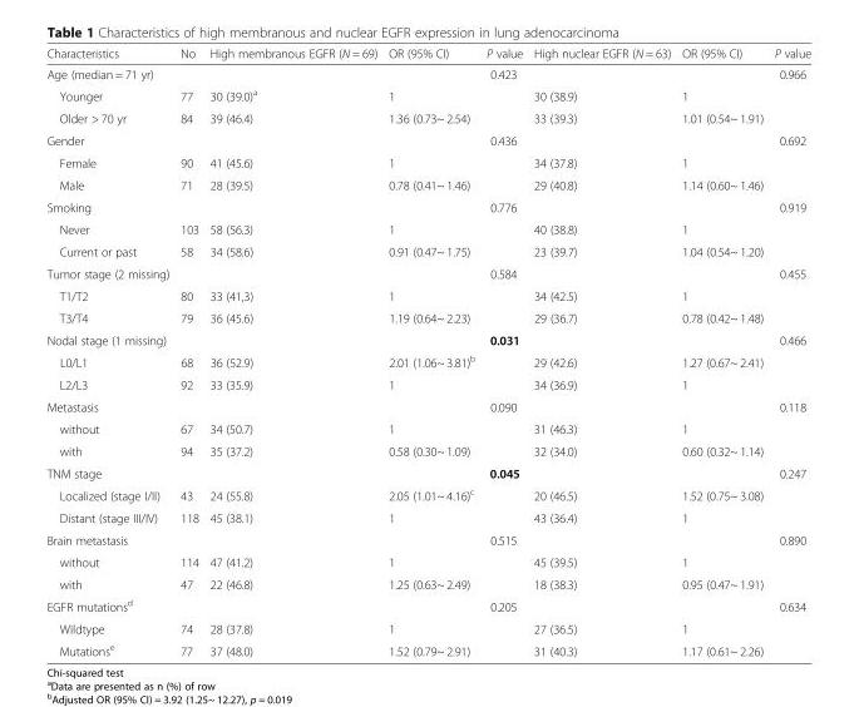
<table><thead><tr><td>Characteristics</td><td>No</td><td>High membranous EGFR (N = 69)</td><td>OR (95% CI)</td><td>P value</td><td>High nuclear EGFR (N = 63)</td><td>OR (95% CI)</td><td>P value</td></tr></thead><tbody><tr><td>Age (median = 71 yr)</td><td></td><td></td><td></td><td>0.423</td><td></td><td></td><td>0.966</td></tr><tr><td>Younger</td><td>77</td><td>30 (39.0)<sup>a</sup></td><td>1</td><td></td><td>30 (38.9)</td><td>1</td><td></td></tr><tr><td>Older &gt; 70 yr</td><td>84</td><td>39 (46.4)</td><td>1.36 (0.73~ 2.54)</td><td></td><td>33 (39.3)</td><td>1.01 (0.54~ 1.91)</td><td></td></tr><tr><td>Gender</td><td></td><td></td><td></td><td>0.436</td><td></td><td></td><td>0.692</td></tr><tr><td>Female</td><td>90</td><td>41 (45.6)</td><td>1</td><td></td><td>34 (37.8)</td><td>1</td><td></td></tr><tr><td>Male</td><td>71</td><td>28 (39.5)</td><td>0.78 (0.41~ 1.46)</td><td></td><td>29 (40.8)</td><td>1.14 (0.60~ 1.46)</td><td></td></tr><tr><td>Smoking</td><td></td><td></td><td></td><td>0.776</td><td></td><td></td><td>0.919</td></tr><tr><td>Never</td><td>103</td><td>58 (56.3)</td><td>1</td><td></td><td>40 (38.8)</td><td>1</td><td></td></tr><tr><td>Current or past</td><td>58</td><td>34 (58.6)</td><td>0.91 (0.47~ 1.75)</td><td></td><td>23 (39.7)</td><td>1.04 (0.54~ 1.20)</td><td></td></tr><tr><td>Tumor stage (2 missing)</td><td></td><td></td><td></td><td>0.584</td><td></td><td></td><td>0.455</td></tr><tr><td>T1/T2</td><td>80</td><td>33 (41,3)</td><td>1</td><td></td><td>34 (42.5)</td><td>1</td><td></td></tr><tr><td>T3/T4</td><td>79</td><td>36 (45.6)</td><td>1.19 (0.64~ 2.23)</td><td></td><td>29 (36.7)</td><td>0.78 (0.42~ 1.48)</td><td></td></tr><tr><td>Nodal stage (1 missing)</td><td></td><td></td><td></td><td>0.031</td><td></td><td></td><td>0.466</td></tr><tr><td>L0/L1</td><td>68</td><td>36 (52.9)</td><td>2.01 (1.06~ 3.81)<sup>b</sup></td><td></td><td>29 (42.6)</td><td>1.27 (0.67~ 2.41)</td><td></td></tr><tr><td>L2/L3</td><td>92</td><td>33 (35.9)</td><td>1</td><td></td><td>34 (36.9)</td><td>1</td><td></td></tr><tr><td>Metastasis</td><td></td><td></td><td></td><td>0.090</td><td></td><td></td><td>0.118</td></tr><tr><td>without</td><td>67</td><td>34 (50.7)</td><td>1</td><td></td><td>31 (46.3)</td><td>1</td><td></td></tr><tr><td>with</td><td>94</td><td>35 (37.2)</td><td>0.58 (0.30~ 1.09)</td><td></td><td>32 (34.0)</td><td>0.60 (0.32~ 1.14)</td><td></td></tr><tr><td>TNM stage</td><td></td><td></td><td></td><td>0.045</td><td></td><td></td><td>0.247</td></tr><tr><td>Localized (stage I/II)</td><td>43</td><td>24 (55.8)</td><td>2.05 (1.01~ 4.16)<sup>c</sup></td><td></td><td>20 (46.5)</td><td>1.52 (0.75~ 3.08)</td><td></td></tr><tr><td>Distant (stage III/IV)</td><td>118</td><td>45 (38.1)</td><td>1</td><td></td><td>43 (36.4)</td><td>1</td><td></td></tr><tr><td>Brain metastasis</td><td></td><td></td><td></td><td>0.515</td><td></td><td></td><td>0.890</td></tr><tr><td>without</td><td>114</td><td>47 (41.2)</td><td>1</td><td></td><td>45 (39.5)</td><td>1</td><td></td></tr><tr><td>with</td><td>47</td><td>22 (46.8)</td><td>1.25 (0.63~ 2.49)</td><td></td><td>18 (38.3)</td><td>0.95 (0.47~ 1.91)</td><td></td></tr><tr><td>EGFR mutations<sup>d</sup></td><td></td><td></td><td></td><td>0.205</td><td></td><td></td><td>0.634</td></tr><tr><td>Wildtype</td><td>74</td><td>28 (37.8)</td><td>1</td><td></td><td>27 (36.5)</td><td>1</td><td></td></tr><tr><td>Mutations<sup>e</sup></td><td>77</td><td>37 (48.0)</td><td>1.52 (0.79~ 2.91)</td><td></td><td>31 (40.3)</td><td>1.17 (0.61~ 2.26)</td><td></td></tr></tbody></table>